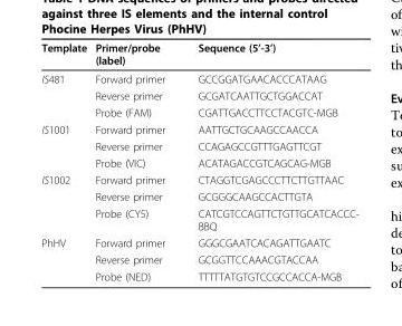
<table><thead><tr><td>Template</td><td>Primer/probe (label)</td><td>Sequence (5’-3’)</td></tr></thead><tbody><tr><td rowspan="3">IS481</td><td>Forward primer</td><td>GCCGGATGAACACCCATAAG</td></tr><tr><td>Reverse primer</td><td>GCGATCAATTGCTGGACCAT</td></tr><tr><td>Probe (FAM)</td><td>CGATTGACCTTCCTACGTC-MGB</td></tr><tr><td rowspan="3">IS1001</td><td>Forward primer</td><td>AATTGCTGCAAGCCAACCA</td></tr><tr><td>Reverse primer</td><td>CCAGAGCCGTTTGAGTTCGT</td></tr><tr><td>Probe (VIC)</td><td>ACATAGACCGTCAGCAG-MGB</td></tr><tr><td rowspan="3">IS1002</td><td>Forward primer</td><td>CTAGGTCGAGCCCTTCTTGTTAAC</td></tr><tr><td>Reverse primer</td><td>GCGGGCAAGCCACTTGTA</td></tr><tr><td>Probe (CY5)</td><td>CATCGTCCAGTTCTGTTGCATCACCC- BBQ</td></tr><tr><td rowspan="3">PhHV</td><td>Forward primer</td><td>GGGCGAATCACAGATTGAATC</td></tr><tr><td>Reverse primer</td><td>GCGGTTCCAAACGTACCAA</td></tr><tr><td>Probe (NED)</td><td>TTTTTATGTGTCCGCCACCA-MGB</td></tr></tbody></table>